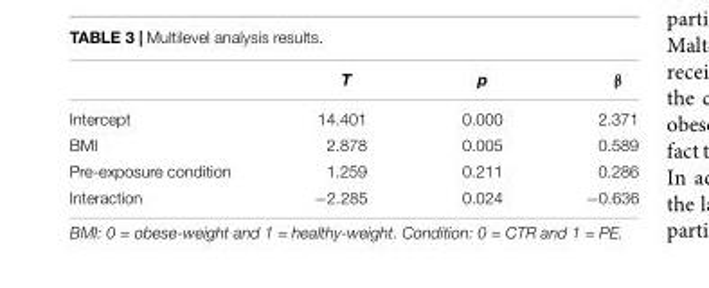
<table><thead><tr><td></td><td>T</td><td>p</td><td>β</td></tr></thead><tbody><tr><td>Intercept</td><td>14.401</td><td>0.000</td><td>2.371</td></tr><tr><td>BMI</td><td>2.878</td><td>0.005</td><td>0.589</td></tr><tr><td>Pre-exposure condition</td><td>1.259</td><td>0.211</td><td>0.286</td></tr><tr><td>Interaction</td><td>−2.285</td><td>0.024</td><td>−0.636</td></tr></tbody></table>